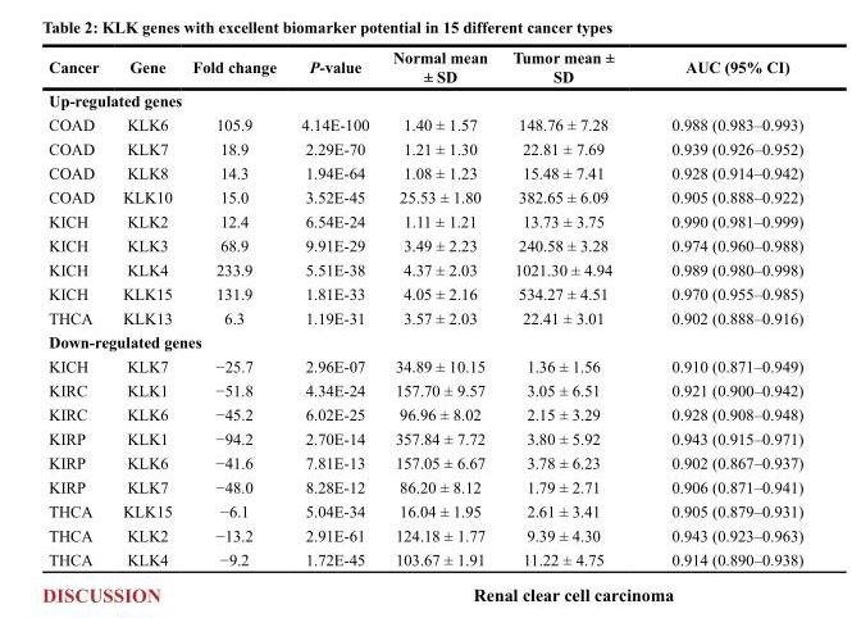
<table><thead><tr><td>Cancer</td><td>Gene</td><td>Fold change</td><td>P-value</td><td>Normal mean ± SD</td><td>Tumor mean ± SD</td><td>AUC (95% CI)</td></tr></thead><tbody><tr><td colspan="7">Up-regulated genes</td></tr><tr><td>COAD</td><td>KLK6</td><td>105.9</td><td>4.14E-100</td><td>1.40 ± 1.57</td><td>148.76 ± 7.28</td><td>0.988 (0.983–0.993)</td></tr><tr><td>COAD</td><td>KLK7</td><td>18.9</td><td>2.29E-70</td><td>1.21 ± 1.30</td><td>22.81 ± 7.69</td><td>0.939 (0.926–0.952)</td></tr><tr><td>COAD</td><td>KLK8</td><td>14.3</td><td>1.94E-64</td><td>1.08 ± 1.23</td><td>15.48 ± 7.41</td><td>0.928 (0.914–0.942)</td></tr><tr><td>COAD</td><td>KLK10</td><td>15.0</td><td>3.52E-45</td><td>25.53 ± 1.80</td><td>382.65 ± 6.09</td><td>0.905 (0.888–0.922)</td></tr><tr><td>KICH</td><td>KLK2</td><td>12.4</td><td>6.54E-24</td><td>1.11 ± 1.21</td><td>13.73 ± 3.75</td><td>0.990 (0.981–0.999)</td></tr><tr><td>KICH</td><td>KLK3</td><td>68.9</td><td>9.91E-29</td><td>3.49 ± 2.23</td><td>240.58 ± 3.28</td><td>0.974 (0.960–0.988)</td></tr><tr><td>KICH</td><td>KLK4</td><td>233.9</td><td>5.51E-38</td><td>4.37 ± 2.03</td><td>1021.30 ± 4.94</td><td>0.989 (0.980–0.998)</td></tr><tr><td>KICH</td><td>KLK15</td><td>131.9</td><td>1.81E-33</td><td>4.05 ± 2.16</td><td>534.27 ± 4.51</td><td>0.970 (0.955–0.985)</td></tr><tr><td>THCA</td><td>KLK13</td><td>6.3</td><td>1.19E-31</td><td>3.57 ± 2.03</td><td>22.41 ± 3.01</td><td>0.902 (0.888–0.916)</td></tr><tr><td colspan="7">Down-regulated genes</td></tr><tr><td>KICH</td><td>KLK7</td><td>−25.7</td><td>2.96E-07</td><td>34.89 ± 10.15</td><td>1.36 ± 1.56</td><td>0.910 (0.871–0.949)</td></tr><tr><td>KIRC</td><td>KLK1</td><td>−51.8</td><td>4.34E-24</td><td>157.70 ± 9.57</td><td>3.05 ± 6.51</td><td>0.921 (0.900–0.942)</td></tr><tr><td>KIRC</td><td>KLK6</td><td>−45.2</td><td>6.02E-25</td><td>96.96 ± 8.02</td><td>2.15 ± 3.29</td><td>0.928 (0.908–0.948)</td></tr><tr><td>KIRP</td><td>KLK1</td><td>−94.2</td><td>2.70E-14</td><td>357.84 ± 7.72</td><td>3.80 ± 5.92</td><td>0.943 (0.915–0.971)</td></tr><tr><td>KIRP</td><td>KLK6</td><td>−41.6</td><td>7.81E-13</td><td>157.05 ± 6.67</td><td>3.78 ± 6.23</td><td>0.902 (0.867–0.937)</td></tr><tr><td>KIRP</td><td>KLK7</td><td>−48.0</td><td>8.28E-12</td><td>86.20 ± 8.12</td><td>1.79 ± 2.71</td><td>0.906 (0.871–0.941)</td></tr><tr><td>THCA</td><td>KLK15</td><td>−6.1</td><td>5.04E-34</td><td>16.04 ± 1.95</td><td>2.61 ± 3.41</td><td>0.905 (0.879–0.931)</td></tr><tr><td>THCA</td><td>KLK2</td><td>−13.2</td><td>2.91E-61</td><td>124.18 ± 1.77</td><td>9.39 ± 4.30</td><td>0.943 (0.923–0.963)</td></tr><tr><td>THCA</td><td>KLK4</td><td>−9.2</td><td>1.72E-45</td><td>103.67 ± 1.91</td><td>11.22 ± 4.75</td><td>0.914 (0.890–0.938)</td></tr></tbody></table>